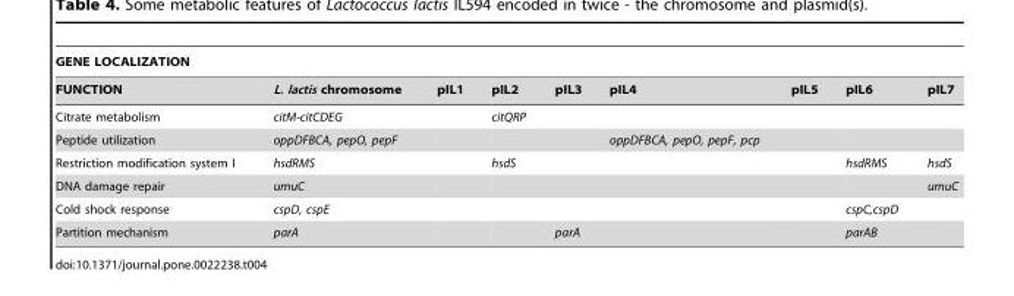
<table><thead><tr><td colspan="9">GENE LOCALIZATION</td></tr><tr><td>FUNCTION</td><td>L. lactis chromosome</td><td>pIL1</td><td>pIL2</td><td>pIL3</td><td>pIL4</td><td>pIL5</td><td>pIL6</td><td>pIL7</td></tr></thead><tbody><tr><td>Citrate metabolism</td><td>citM-citCDEG</td><td></td><td>citQRP</td><td></td><td></td><td></td><td></td><td></td></tr><tr><td>Peptide utilization</td><td>oppDFBCA, pepO, pepF</td><td></td><td></td><td></td><td>oppDFBCA, pepO, pepF, pcp</td><td></td><td></td><td></td></tr><tr><td>Restriction modification system I</td><td>hsdRMS</td><td></td><td>hsdS</td><td></td><td></td><td></td><td>hsdRMS</td><td>hsdS</td></tr><tr><td>DNA damage repair</td><td>umuC</td><td></td><td></td><td></td><td></td><td></td><td></td><td>umuC</td></tr><tr><td>Cold shock response</td><td>cspD, cspE</td><td></td><td></td><td></td><td></td><td></td><td>cspC,cspD</td><td></td></tr><tr><td>Partition mechanism</td><td>parA</td><td></td><td></td><td>parA</td><td></td><td></td><td>parAB</td><td></td></tr></tbody></table>